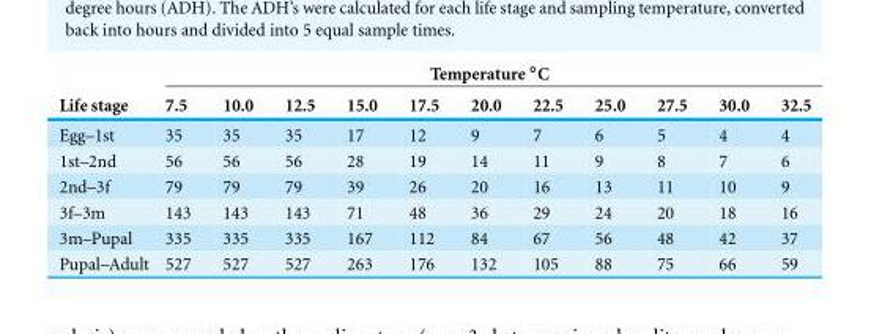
<table><thead><tr><td rowspan="2">Life stage</td><td colspan="11">Temperature ◦C</td></tr><tr><td>7.5</td><td>10.0</td><td>12.5</td><td>15.0</td><td>17.5</td><td>20.0</td><td>22.5</td><td>25.0</td><td>27.5</td><td>30.0</td><td>32.5</td></tr></thead><tbody><tr><td>Egg–1st</td><td>35</td><td>35</td><td>35</td><td>17</td><td>12</td><td>9</td><td>7</td><td>6</td><td>5</td><td>4</td><td>4</td></tr><tr><td>1st–2nd</td><td>56</td><td>56</td><td>56</td><td>28</td><td>19</td><td>14</td><td>11</td><td>9</td><td>8</td><td>7</td><td>6</td></tr><tr><td>2nd–3f</td><td>79</td><td>79</td><td>79</td><td>39</td><td>26</td><td>20</td><td>16</td><td>13</td><td>11</td><td>10</td><td>9</td></tr><tr><td>3f–3m</td><td>143</td><td>143</td><td>143</td><td>71</td><td>48</td><td>36</td><td>29</td><td>24</td><td>20</td><td>18</td><td>16</td></tr><tr><td>3m–Pupal</td><td>335</td><td>335</td><td>335</td><td>167</td><td>112</td><td>84</td><td>67</td><td>56</td><td>48</td><td>42</td><td>37</td></tr><tr><td>Pupal–Adult</td><td>527</td><td>527</td><td>527</td><td>263</td><td>176</td><td>132</td><td>105</td><td>88</td><td>75</td><td>66</td><td>59</td></tr></tbody></table>